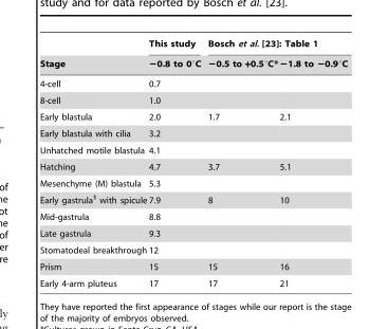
<table><thead><tr><td rowspan="2">Stage</td><td rowspan="2">This study −0.8 to 0°C</td><td colspan="2">Bosch et al. [23]: Table 1</td></tr><tr><td>−0.5 to +0.5°C*</td><td>−1.8 to −0.9°C</td></tr></thead><tbody><tr><td>4-cell</td><td>0.7</td><td></td><td></td></tr><tr><td>8-cell</td><td>1.0</td><td></td><td></td></tr><tr><td>Early blastula</td><td>2.0</td><td>1.7</td><td>2.1</td></tr><tr><td>Early blastula with cilia</td><td>3.2</td><td></td><td></td></tr><tr><td>Unhatched motile blastula</td><td>4.1</td><td></td><td></td></tr><tr><td>Hatching</td><td>4.7</td><td>3.7</td><td>5.1</td></tr><tr><td>Mesenchyme (M) blastula</td><td>5.3</td><td></td><td></td></tr><tr><td>Early gastrula§ with spicule</td><td>7.9</td><td>8</td><td>10</td></tr><tr><td>Mid-gastrula</td><td>8.8</td><td></td><td></td></tr><tr><td>Late gastrula</td><td>9.3</td><td></td><td></td></tr><tr><td>Stomatodeal breakthrough</td><td>12</td><td></td><td></td></tr><tr><td>Prism</td><td>15</td><td>15</td><td>16</td></tr><tr><td>Early 4-arm pluteus</td><td>17</td><td>17</td><td>21</td></tr></tbody></table>